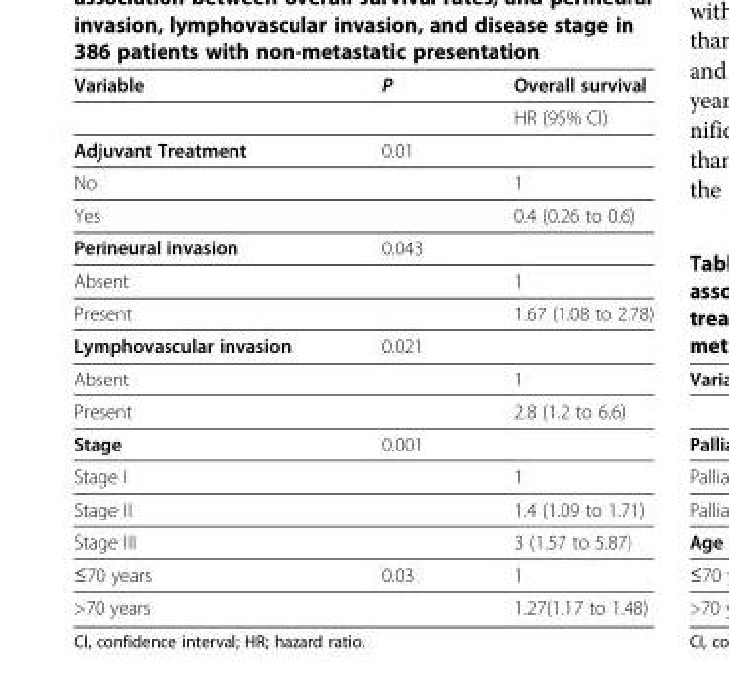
<table><thead><tr><td>Variable</td><td>P</td><td>Overall survival</td></tr></thead><tbody><tr><td></td><td></td><td>HR (95% CI)</td></tr><tr><td>Adjuvant Treatment</td><td>0.01</td><td></td></tr><tr><td>No</td><td></td><td>1</td></tr><tr><td>Yes</td><td></td><td>0.4 (0.26 to 0.6)</td></tr><tr><td>Perineural invasion</td><td>0.043</td><td></td></tr><tr><td>Absent</td><td></td><td>1</td></tr><tr><td>Present</td><td></td><td>1.67 (1.08 to 2.78)</td></tr><tr><td>Lymphovascular invasion</td><td>0.021</td><td></td></tr><tr><td>Absent</td><td></td><td>1</td></tr><tr><td>Present</td><td></td><td>2.8 (1.2 to 6.6)</td></tr><tr><td>Stage</td><td>0.001</td><td></td></tr><tr><td>Stage I</td><td></td><td>1</td></tr><tr><td>Stage II</td><td></td><td>1.4 (1.09 to 1.71)</td></tr><tr><td>Stage III</td><td></td><td>3 (1.57 to 5.87)</td></tr><tr><td>≤70 years</td><td>0.03</td><td>1</td></tr><tr><td>&gt;70 years</td><td></td><td>1.27(1.17 to 1.48)</td></tr></tbody></table>